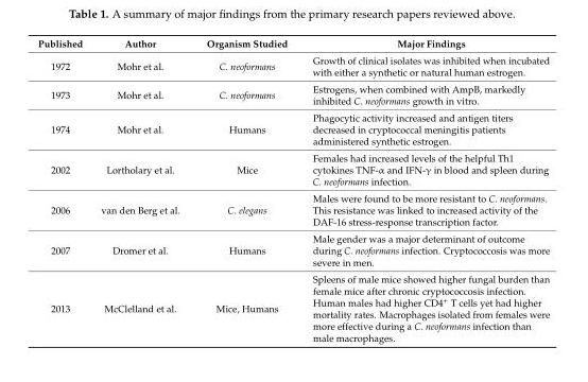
<table><thead><tr><td>Published</td><td>Author</td><td>Organism Studied</td><td>Major Findings</td></tr></thead><tbody><tr><td>1972</td><td>Mohr et al.</td><td>C. neoformans</td><td>Growth of clinical isolates was inhibited when incubated with either a synthetic or natural human estrogen.</td></tr><tr><td>1973</td><td>Mohr et al.</td><td>C. neoformans</td><td>Estrogens, when combined with AmpB, markedly inhibited C. neoformans growth in vitro.</td></tr><tr><td>1974</td><td>Mohr et al.</td><td>Humans</td><td>Phagocytic activity increased and antigen titers decreased in cryptococcal meningitis patients administered synthetic estrogen.</td></tr><tr><td>2002</td><td>Lortholary et al.</td><td>Mice</td><td>Females had increased levels of the helpful Th1 cytokines TNF-α and IFN-γ in blood and spleen during C. neoformans infection.</td></tr><tr><td>2006</td><td>van den Berg et al.</td><td>C. elegans</td><td>Males were found to be more resistant to C. neoformans. This resistance was linked to increased activity of the DAF-16 stress-response transcription factor.</td></tr><tr><td>2007</td><td>Dromer et al.</td><td>Humans</td><td>Male gender was a major determinant of outcome during C. neoformans infection. Cryptococcosis was more severe in men.</td></tr><tr><td>2013</td><td>McClelland et al.</td><td>Mice, Humans</td><td>Spleens of male mice showed higher fungal burden than female mice after chronic cryptococcosis infection. Human males had higher CD4<sup>+</sup> T cells yet had higher mortality rates. Macrophages isolated from females were more effective during a C. neoformans infection than male macrophages.</td></tr></tbody></table>